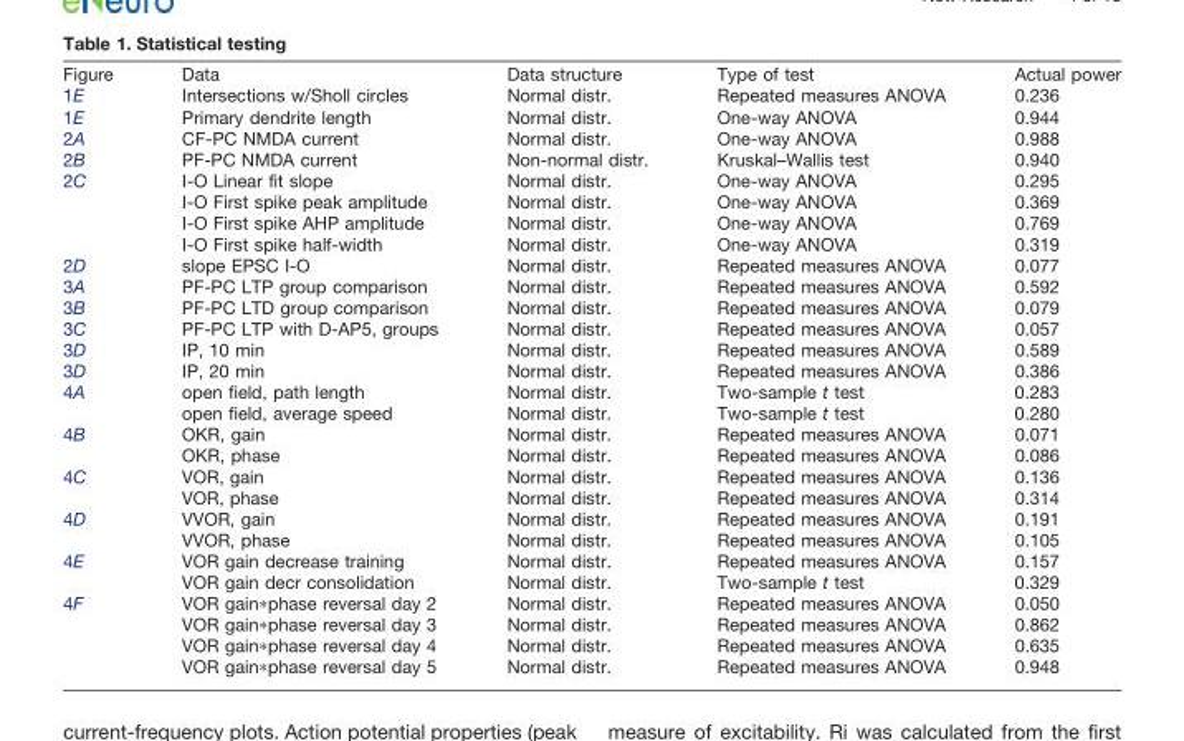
<table><thead><tr><td>Figure</td><td>Data</td><td>Data structure</td><td>Type of test</td><td>Actual power</td></tr></thead><tbody><tr><td>1E</td><td>Intersections w/Sholl circles</td><td>Normal distr.</td><td>Repeated measures ANOVA</td><td>0.236</td></tr><tr><td>1E</td><td>Primary dendrite length</td><td>Normal distr.</td><td>One-way ANOVA</td><td>0.944</td></tr><tr><td>2A</td><td>CF-PC NMDA current</td><td>Normal distr.</td><td>One-way ANOVA</td><td>0.988</td></tr><tr><td>2B</td><td>PF-PC NMDA current</td><td>Non-normal distr.</td><td>Kruskal–Wallis test</td><td>0.940</td></tr><tr><td rowspan="4">2C</td><td>I-O Linear fit slope</td><td>Normal distr.</td><td>One-way ANOVA</td><td>0.295</td></tr><tr><td>I-O First spike peak amplitude</td><td>Normal distr.</td><td>One-way ANOVA</td><td>0.369</td></tr><tr><td>I-O First spike AHP amplitude</td><td>Normal distr.</td><td>One-way ANOVA</td><td>0.769</td></tr><tr><td>I-O First spike half-width</td><td>Normal distr.</td><td>One-way ANOVA</td><td>0.319</td></tr><tr><td>2D</td><td>slope EPSC I-O</td><td>Normal distr.</td><td>Repeated measures ANOVA</td><td>0.077</td></tr><tr><td>3A</td><td>PF-PC LTP group comparison</td><td>Normal distr.</td><td>Repeated measures ANOVA</td><td>0.592</td></tr><tr><td>3B</td><td>PF-PC LTD group comparison</td><td>Normal distr.</td><td>Repeated measures ANOVA</td><td>0.079</td></tr><tr><td>3C</td><td>PF-PC LTP with D-AP5, groups</td><td>Normal distr.</td><td>Repeated measures ANOVA</td><td>0.057</td></tr><tr><td>3D</td><td>IP, 10 min</td><td>Normal distr.</td><td>Repeated measures ANOVA</td><td>0.589</td></tr><tr><td>3D</td><td>IP, 20 min</td><td>Normal distr.</td><td>Repeated measures ANOVA</td><td>0.386</td></tr><tr><td rowspan="2">4A</td><td>open field, path length</td><td>Normal distr.</td><td>Two-sample t test</td><td>0.283</td></tr><tr><td>open field, average speed</td><td>Normal distr.</td><td>Two-sample t test</td><td>0.280</td></tr><tr><td rowspan="2">4B</td><td>OKR, gain</td><td>Normal distr.</td><td>Repeated measures ANOVA</td><td>0.071</td></tr><tr><td>OKR, phase</td><td>Normal distr.</td><td>Repeated measures ANOVA</td><td>0.086</td></tr><tr><td rowspan="2">4C</td><td>VOR, gain</td><td>Normal distr.</td><td>Repeated measures ANOVA</td><td>0.136</td></tr><tr><td>VOR, phase</td><td>Normal distr.</td><td>Repeated measures ANOVA</td><td>0.314</td></tr><tr><td rowspan="2">4D</td><td>VVOR, gain</td><td>Normal distr.</td><td>Repeated measures ANOVA</td><td>0.191</td></tr><tr><td>VVOR, phase</td><td>Normal distr.</td><td>Repeated measures ANOVA</td><td>0.105</td></tr><tr><td rowspan="2">4E</td><td>VOR gain decrease training</td><td>Normal distr.</td><td>Repeated measures ANOVA</td><td>0.157</td></tr><tr><td>VOR gain decr consolidation</td><td>Normal distr.</td><td>Two-sample t test</td><td>0.329</td></tr><tr><td rowspan="4">4F</td><td>VOR gain*phase reversal day 2</td><td>Normal distr.</td><td>Repeated measures ANOVA</td><td>0.050</td></tr><tr><td>VOR gain*phase reversal day 3</td><td>Normal distr.</td><td>Repeated measures ANOVA</td><td>0.862</td></tr><tr><td>VOR gain*phase reversal day 4</td><td>Normal distr.</td><td>Repeated measures ANOVA</td><td>0.635</td></tr><tr><td>VOR gain*phase reversal day 5</td><td>Normal distr.</td><td>Repeated measures ANOVA</td><td>0.948</td></tr></tbody></table>